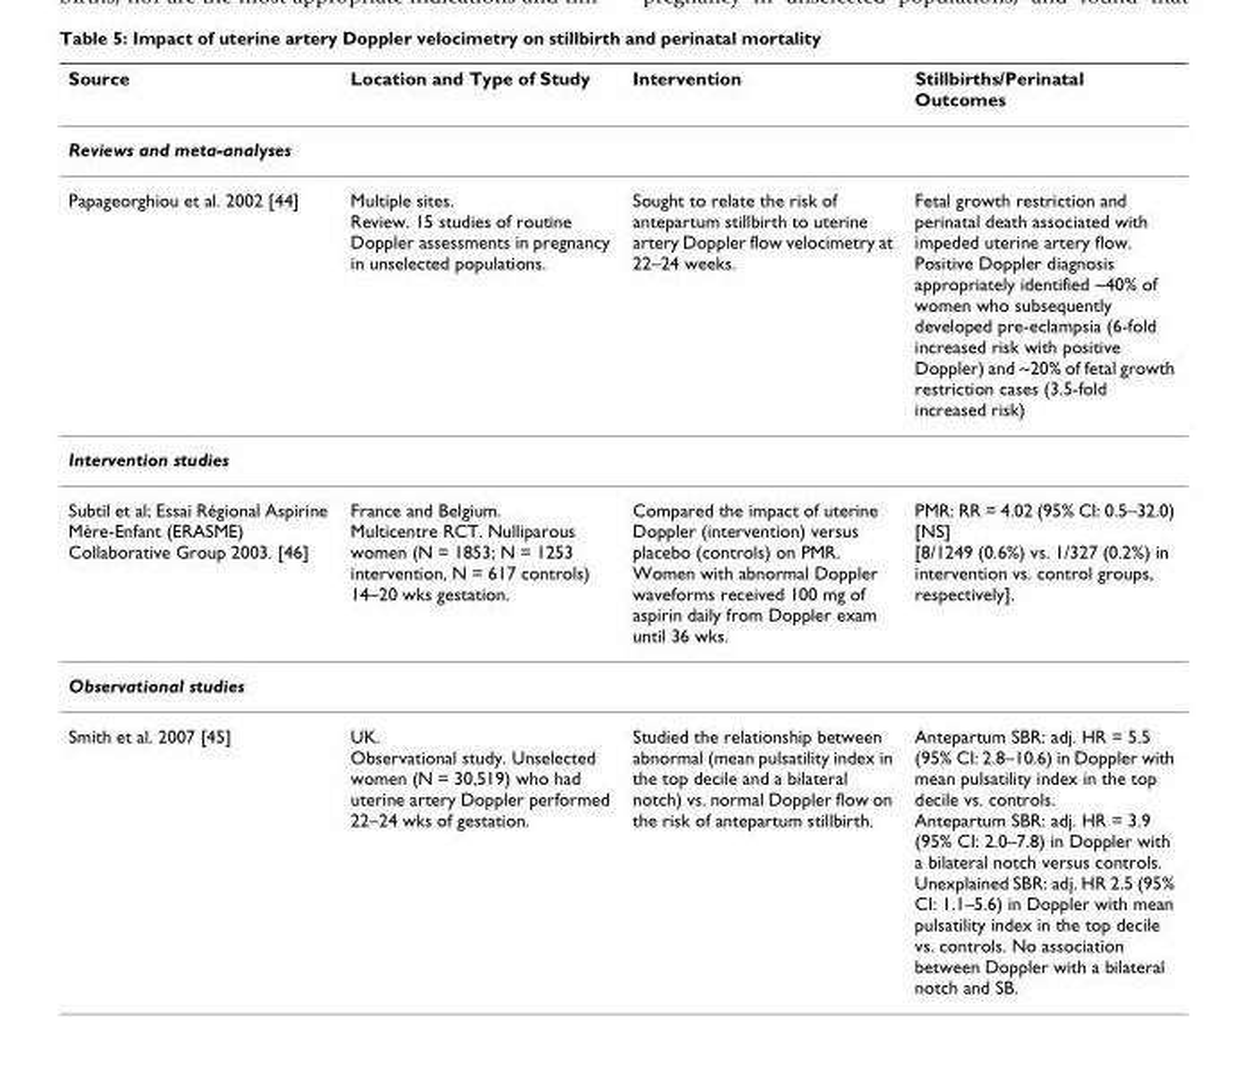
<table><thead><tr><td>Source</td><td>Location and Type of Study</td><td>Intervention</td><td>Stillbirths/Perinatal Outcomes</td></tr></thead><tbody><tr><td colspan="4">Reviews and meta-analyses</td></tr><tr><td>Papageorghiou et al. 2002 [44]</td><td>Multiple sites. Review. 15 studies of routine Doppler assessments in pregnancy in unselected populations.</td><td>Sought to relate the risk of antepartum stillbirth to uterine artery Doppler flow velocimetry at 22–24 weeks.</td><td>Fetal growth restriction and perinatal death associated with impeded uterine artery flow. Positive Doppler diagnosis appropriately identified ~40% of women who subsequently developed pre-eclampsia (6-fold increased risk with positive Doppler) and ~20% of fetal growth restriction cases (3.5-fold increased risk)</td></tr><tr><td colspan="4">Intervention studies</td></tr><tr><td>Subtil et al; Essai Régional Aspirine Mère-Enfant (ERASME) Collaborative Group 2003. [46]</td><td>France and Belgium. Multicentre RCT. Nulliparous women (N = 1853; N = 1253 intervention, N = 617 controls) 14–20 wks gestation.</td><td>Compared the impact of uterine Doppler (intervention) versus placebo (controls) on PMR. Women with abnormal Doppler waveforms received 100 mg of aspirin daily from Doppler exam until 36 wks.</td><td>PMR: RR = 4.02 (95% CI: 0.5–32.0) [NS] [8/1249 (0.6%) vs. 1/327 (0.2%) in intervention vs. control groups, respectively].</td></tr><tr><td colspan="4">Observational studies</td></tr><tr><td>Smith et al. 2007 [45]</td><td>UK. Observational study. Unselected women (N = 30,519) who had uterine artery Doppler performed 22–24 wks of gestation.</td><td>Studied the relationship between abnormal (mean pulsatility index in the top decile and a bilateral notch) vs. normal Doppler flow on the risk of antepartum stillbirth.</td><td>Antepartum SBR: adj. HR = 5.5 (95% CI: 2.8–10.6) in Doppler with mean pulsatility index in the top decile vs. controls. Antepartum SBR: adj. HR = 3.9 (95% CI: 2.0–7.8) in Doppler with a bilateral notch versus controls. Unexplained SBR: adj. HR 2.5 (95% CI: 1.1–5.6) in Doppler with mean pulsatility index in the top decile vs. controls. No association between Doppler with a bilateral notch and SB.</td></tr></tbody></table>